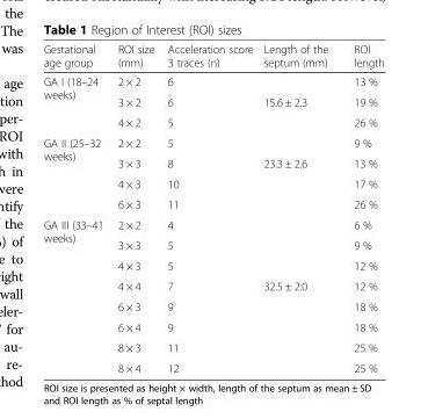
<table><thead><tr><td>Gestational age group</td><td>ROI size (mm)</td><td>Acceleration score 3 traces (n)</td><td>Length of the septum (mm)</td><td>ROI length</td></tr></thead><tbody><tr><td rowspan="3">GA I (18–24 weeks)</td><td>2 × 2</td><td>6</td><td></td><td>13 %</td></tr><tr><td>3 × 2</td><td>6</td><td>15.6 ± 2.3</td><td>19 %</td></tr><tr><td>4 × 2</td><td>5</td><td></td><td>26 %</td></tr><tr><td rowspan="4">GA II (25–32 weeks)</td><td>2 × 2</td><td>5</td><td></td><td>9 %</td></tr><tr><td>3 × 3</td><td>8</td><td>23.3 ± 2.6</td><td>13 %</td></tr><tr><td>4 × 3</td><td>10</td><td></td><td>17 %</td></tr><tr><td>6 × 3</td><td>11</td><td></td><td>26 %</td></tr><tr><td rowspan="8">GA III (33–41 weeks)</td><td>2 × 2</td><td>4</td><td></td><td>6 %</td></tr><tr><td>3 × 3</td><td>5</td><td></td><td>9 %</td></tr><tr><td>4 × 3</td><td>5</td><td></td><td>12 %</td></tr><tr><td>4 × 4</td><td>7</td><td>32.5 ± 2.0</td><td>12 %</td></tr><tr><td>6 × 3</td><td>9</td><td></td><td>18 %</td></tr><tr><td>6 × 4</td><td>9</td><td></td><td>18 %</td></tr><tr><td>8 × 3</td><td>11</td><td></td><td>25 %</td></tr><tr><td>8 × 4</td><td>12</td><td></td><td>25 %</td></tr></tbody></table>